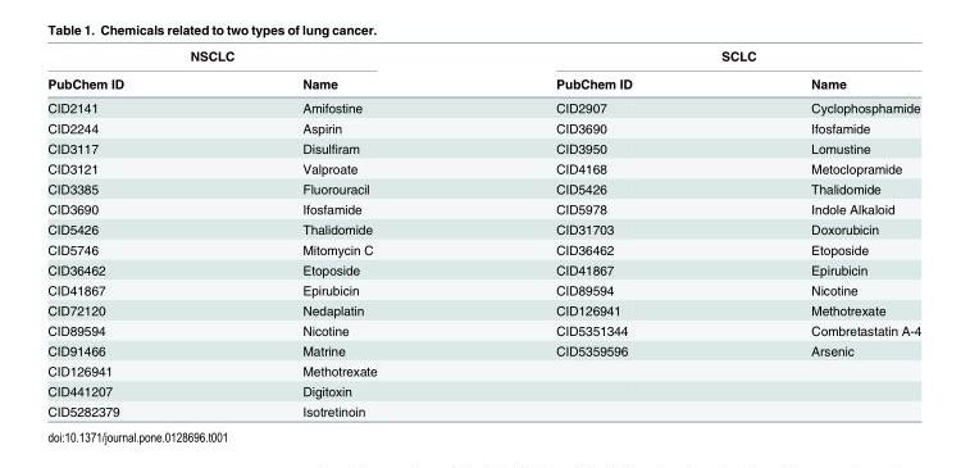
<table><thead><tr><td colspan="2">NSCLC</td><td colspan="2">SCLC</td></tr><tr><td>PubChem ID</td><td>Name</td><td>PubChem ID</td><td>Name</td></tr></thead><tbody><tr><td>CID2141</td><td>Amifostine</td><td>CID2907</td><td>Cyclophosphamide</td></tr><tr><td>CID2244</td><td>Aspirin</td><td>CID3690</td><td>Ifosfamide</td></tr><tr><td>CID3117</td><td>Disulfiram</td><td>CID3950</td><td>Lomustine</td></tr><tr><td>CID3121</td><td>Valproate</td><td>CID4168</td><td>Metoclopramide</td></tr><tr><td>CID3385</td><td>Fluorouracil</td><td>CID5426</td><td>Thalidomide</td></tr><tr><td>CID3690</td><td>Ifosfamide</td><td>CID5978</td><td>Indole Alkaloid</td></tr><tr><td>CID5426</td><td>Thalidomide</td><td>CID31703</td><td>Doxorubicin</td></tr><tr><td>CID5746</td><td>Mitomycin C</td><td>CID36462</td><td>Etoposide</td></tr><tr><td>CID36462</td><td>Etoposide</td><td>CID41867</td><td>Epirubicin</td></tr><tr><td>CID41867</td><td>Epirubicin</td><td>CID89594</td><td>Nicotine</td></tr><tr><td>CID72120</td><td>Nedaplatin</td><td>CID126941</td><td>Methotrexate</td></tr><tr><td>CID89594</td><td>Nicotine</td><td>CID5351344</td><td>Combretastatin A-4</td></tr><tr><td>CID91466</td><td>Matrine</td><td>CID5359596</td><td>Arsenic</td></tr><tr><td>CID126941</td><td>Methotrexate</td><td></td><td></td></tr><tr><td>CID441207</td><td>Digitoxin</td><td></td><td></td></tr><tr><td>CID5282379</td><td>Isotretinoin</td><td></td><td></td></tr></tbody></table>